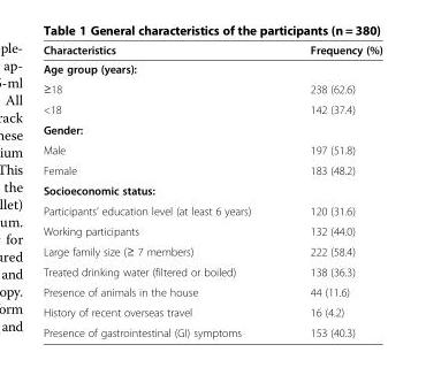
<table><thead><tr><td>Characteristics</td><td>Frequency (%)</td></tr></thead><tbody><tr><td colspan="2">Age group (years):</td></tr><tr><td>≥18</td><td>238 (62.6)</td></tr><tr><td>&lt;18</td><td>142 (37.4)</td></tr><tr><td colspan="2">Gender:</td></tr><tr><td>Male</td><td>197 (51.8)</td></tr><tr><td>Female</td><td>183 (48.2)</td></tr><tr><td colspan="2">Socioeconomic status:</td></tr><tr><td>Participants’ education level (at least 6 years)</td><td>120 (31.6)</td></tr><tr><td>Working participants</td><td>132 (44.0)</td></tr><tr><td>Large family size (≥ 7 members)</td><td>222 (58.4)</td></tr><tr><td>Treated drinking water (filtered or boiled)</td><td>138 (36.3)</td></tr><tr><td>Presence of animals in the house</td><td>44 (11.6)</td></tr><tr><td>History of recent overseas travel</td><td>16 (4.2)</td></tr><tr><td>Presence of gastrointestinal (GI) symptoms</td><td>153 (40.3)</td></tr></tbody></table>